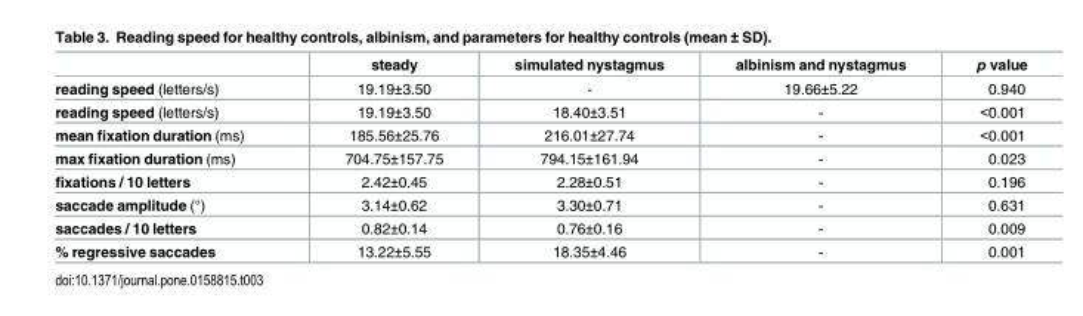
<table><thead><tr><td></td><td>steady</td><td>simulated nystagmus</td><td>albinism and nystagmus</td><td>p value</td></tr></thead><tbody><tr><td>reading speed (letters/s)</td><td>19.19±3.50</td><td>-</td><td>19.66±5.22</td><td>0.940</td></tr><tr><td>reading speed (letters/s)</td><td>19.19±3.50</td><td>18.40±3.51</td><td>-</td><td>&lt;0.001</td></tr><tr><td>mean fixation duration (ms)</td><td>185.56±25.76</td><td>216.01±27.74</td><td>-</td><td>&lt;0.001</td></tr><tr><td>max fixation duration (ms)</td><td>704.75±157.75</td><td>794.15±161.94</td><td>-</td><td>0.023</td></tr><tr><td>fixations / 10 letters</td><td>2.42±0.45</td><td>2.28±0.51</td><td>-</td><td>0.196</td></tr><tr><td>saccade amplitude (°)</td><td>3.14±0.62</td><td>3.30±0.71</td><td>-</td><td>0.631</td></tr><tr><td>saccades / 10 letters</td><td>0.82±0.14</td><td>0.76±0.16</td><td>-</td><td>0.009</td></tr><tr><td>% regressive saccades</td><td>13.22±5.55</td><td>18.35±4.46</td><td>-</td><td>0.001</td></tr></tbody></table>